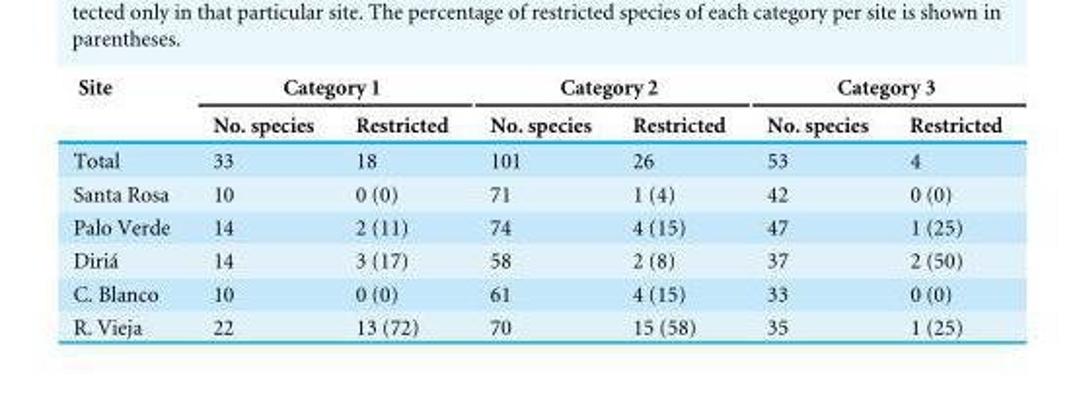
<table><thead><tr><td rowspan="2">Site</td><td colspan="2">Category 1</td><td colspan="2">Category 2</td><td colspan="2">Category 3</td></tr><tr><td>No. species</td><td>Restricted</td><td>No. species</td><td>Restricted</td><td>No. species</td><td>Restricted</td></tr></thead><tbody><tr><td>Total</td><td>33</td><td>18</td><td>101</td><td>26</td><td>53</td><td>4</td></tr><tr><td>Santa Rosa</td><td>10</td><td>0 (0)</td><td>71</td><td>1 (4)</td><td>42</td><td>0 (0)</td></tr><tr><td>Palo Verde</td><td>14</td><td>2 (11)</td><td>74</td><td>4 (15)</td><td>47</td><td>1 (25)</td></tr><tr><td>Diriá</td><td>14</td><td>3 (17)</td><td>58</td><td>2 (8)</td><td>37</td><td>2 (50)</td></tr><tr><td>C. Blanco</td><td>10</td><td>0 (0)</td><td>61</td><td>4 (15)</td><td>33</td><td>0 (0)</td></tr><tr><td>R. Vieja</td><td>22</td><td>13 (72)</td><td>70</td><td>15 (58)</td><td>35</td><td>1 (25)</td></tr></tbody></table>